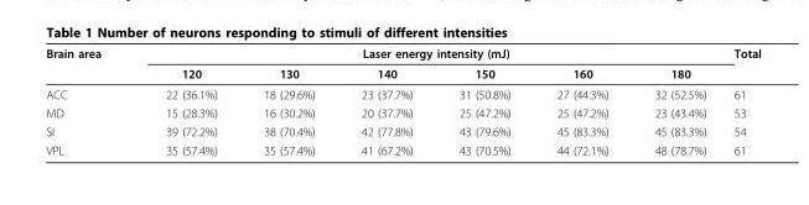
<table><thead><tr><td rowspan="2">Brain area</td><td colspan="6">Laser energy intensity (mJ)</td><td rowspan="2">Total</td></tr><tr><td>120</td><td>130</td><td>140</td><td>150</td><td>160</td><td>180</td></tr></thead><tbody><tr><td>ACC</td><td>22 (36.1%)</td><td>18 (29.6%)</td><td>23 (37.7%)</td><td>31 (50.8%)</td><td>27 (44.3%)</td><td>32 (52.5%)</td><td>61</td></tr><tr><td>MD</td><td>15 (28.3%)</td><td>16 (30.2%)</td><td>20 (37.7%)</td><td>25 (47.2%)</td><td>25 (47.2%)</td><td>23 (43.4%)</td><td>53</td></tr><tr><td>SI</td><td>39 (72.2%)</td><td>38 (70.4%)</td><td>42 (77.8%)</td><td>43 (79.6%)</td><td>45 (83.3%)</td><td>45 (83.3%)</td><td>54</td></tr><tr><td>VPL</td><td>35 (57.4%)</td><td>35 (57.4%)</td><td>41 (67.2%)</td><td>43 (70.5%)</td><td>44 (72.1%)</td><td>48 (78.7%)</td><td>61</td></tr></tbody></table>